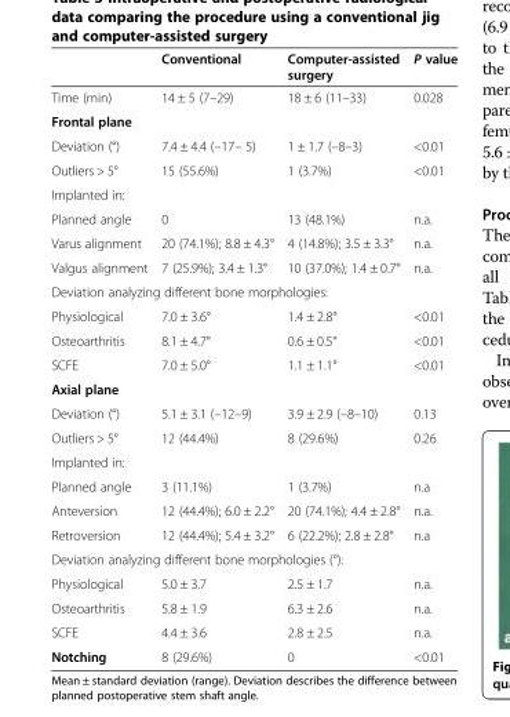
<table><thead><tr><td></td><td>Conventional</td><td>Computer-assisted surgery</td><td>P value</td></tr></thead><tbody><tr><td>Time (min)</td><td>14 ± 5 (7–29)</td><td>18 ± 6 (11–33)</td><td>0.028</td></tr><tr><td colspan="4">Frontal plane</td></tr><tr><td>Deviation (°)</td><td>7.4 ± 4.4 (–17– 5)</td><td>1 ± 1.7 (–8–3)</td><td>&lt;0.01</td></tr><tr><td>Outliers &gt; 5°</td><td>15 (55.6%)</td><td>1 (3.7%)</td><td>&lt;0.01</td></tr><tr><td colspan="4">Implanted in:</td></tr><tr><td>Planned angle</td><td>0</td><td>13 (48.1%)</td><td>n.a.</td></tr><tr><td>Varus alignment</td><td>20 (74.1%); 8.8 ± 4.3°</td><td>4 (14.8%); 3.5 ± 3.3°</td><td>n.a.</td></tr><tr><td>Valgus alignment</td><td>7 (25.9%); 3.4 ± 1.3°</td><td>10 (37.0%); 1.4 ± 0.7°</td><td>n.a.</td></tr><tr><td colspan="4">Deviation analyzing different bone morphologies:</td></tr><tr><td>Physiological</td><td>7.0 ± 3.6°</td><td>1.4 ± 2.8°</td><td>&lt;0.01</td></tr><tr><td>Osteoarthritis</td><td>8.1 ± 4.7°</td><td>0.6 ± 0.5°</td><td>&lt;0.01</td></tr><tr><td>SCFE</td><td>7.0 ± 5.0°</td><td>1.1 ± 1.1°</td><td>&lt;0.01</td></tr><tr><td colspan="4">Axial plane</td></tr><tr><td>Deviation (°)</td><td>5.1 ± 3.1 (–12–9)</td><td>3.9 ± 2.9 (–8–10)</td><td>0.13</td></tr><tr><td>Outliers &gt; 5°</td><td>12 (44.4%)</td><td>8 (29.6%)</td><td>0.26</td></tr><tr><td colspan="4">Implanted in:</td></tr><tr><td>Planned angle</td><td>3 (11.1%)</td><td>1 (3.7%)</td><td>n.a</td></tr><tr><td>Anteversion</td><td>12 (44.4%); 6.0 ± 2.2°</td><td>20 (74.1%); 4.4 ± 2.8°</td><td>n.a.</td></tr><tr><td>Retroversion</td><td>12 (44.4%); 5.4 ± 3.2°</td><td>6 (22.2%); 2.8 ± 2.8°</td><td>n.a</td></tr><tr><td colspan="4">Deviation analyzing different bone morphologies (°):</td></tr><tr><td>Physiological</td><td>5.0 ± 3.7</td><td>2.5 ± 1.7</td><td>n.a.</td></tr><tr><td>Osteoarthritis</td><td>5.8 ± 1.9</td><td>6.3 ± 2.6</td><td>n.a.</td></tr><tr><td>SCFE</td><td>4.4 ± 3.6</td><td>2.8 ± 2.5</td><td>n.a.</td></tr><tr><td>Notching</td><td>8 (29.6%)</td><td>0</td><td>&lt;0.01</td></tr></tbody></table>